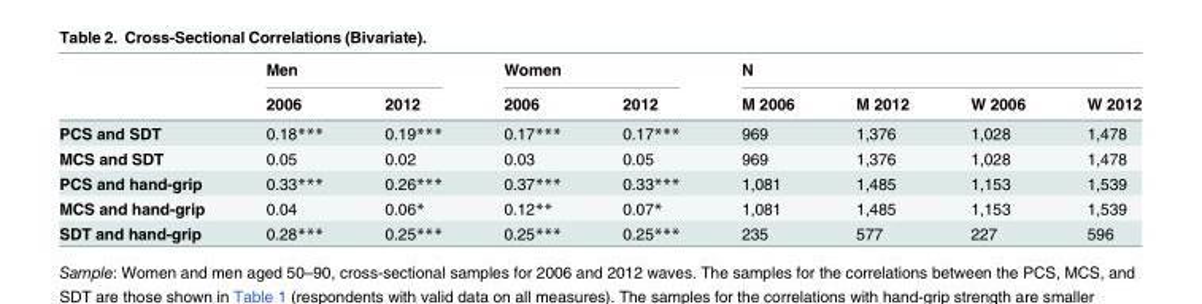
<table><thead><tr><td rowspan="2"></td><td colspan="2">Men</td><td colspan="2">Women</td><td colspan="4">N</td></tr><tr><td>2006</td><td>2012</td><td>2006</td><td>2012</td><td>M 2006</td><td>M 2012</td><td>W 2006</td><td>W 2012</td></tr></thead><tbody><tr><td>PCS and SDT</td><td>0.18***</td><td>0.19***</td><td>0.17***</td><td>0.17***</td><td>969</td><td>1,376</td><td>1,028</td><td>1,478</td></tr><tr><td>MCS and SDT</td><td>0.05</td><td>0.02</td><td>0.03</td><td>0.05</td><td>969</td><td>1,376</td><td>1,028</td><td>1,478</td></tr><tr><td>PCS and hand-grip</td><td>0.33***</td><td>0.26***</td><td>0.37***</td><td>0.33***</td><td>1,081</td><td>1,485</td><td>1,153</td><td>1,539</td></tr><tr><td>MCS and hand-grip</td><td>0.04</td><td>0.06*</td><td>0.12**</td><td>0.07*</td><td>1,081</td><td>1,485</td><td>1,153</td><td>1,539</td></tr><tr><td>SDT and hand-grip</td><td>0.28***</td><td>0.25***</td><td>0.25***</td><td>0.25***</td><td>235</td><td>577</td><td>227</td><td>596</td></tr></tbody></table>